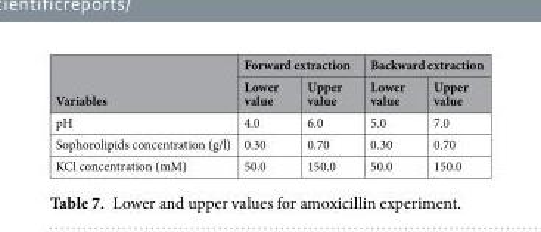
<table><thead><tr><td rowspan="2">Variables</td><td colspan="2">Forward extraction</td><td colspan="2">Backward extraction</td></tr><tr><td>Lower value</td><td>Upper value</td><td>Lower value</td><td>Upper value</td></tr></thead><tbody><tr><td>pH</td><td>4.0</td><td>6.0</td><td>5.0</td><td>7.0</td></tr><tr><td>Sophorolipids concentration (g/l)</td><td>0.30</td><td>0.70</td><td>0.30</td><td>0.70</td></tr><tr><td>KCl concentration (mM)</td><td>50.0</td><td>150.0</td><td>50.0</td><td>150.0</td></tr></tbody></table>